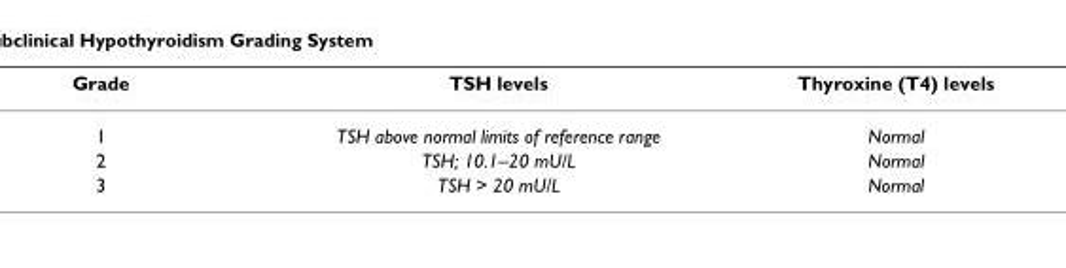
<table><thead><tr><td>Grade</td><td>TSH levels</td><td>Thyroxine (T4) levels</td></tr></thead><tbody><tr><td>1</td><td>TSH above normal limits of reference range</td><td>Normal</td></tr><tr><td>2</td><td>TSH; 10.1–20 mU/L</td><td>Normal</td></tr><tr><td>3</td><td>TSH &gt; 20 mU/L</td><td>Normal</td></tr></tbody></table>